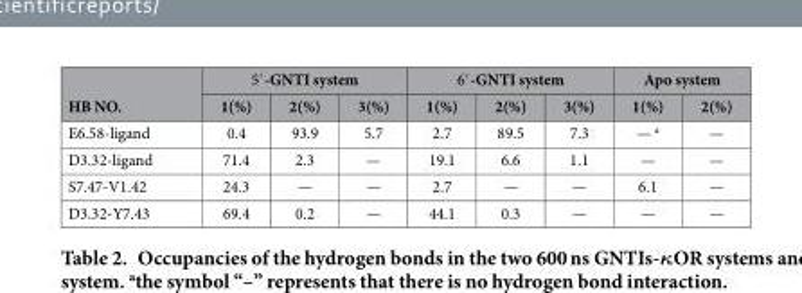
<table><thead><tr><td rowspan="2">HB NO.</td><td colspan="3">5′ -GNTI system</td><td colspan="3">6′ -GNTI system</td><td colspan="2">Apo system</td></tr><tr><td>1(%)</td><td>2(%)</td><td>3(%)</td><td>1(%)</td><td>2(%)</td><td>3(%)</td><td>1(%)</td><td>2(%)</td></tr></thead><tbody><tr><td>E6.58-ligand</td><td>0.4</td><td>93.9</td><td>5.7</td><td>2.7</td><td>89.5</td><td>7.3</td><td>— a</td><td>—</td></tr><tr><td>D3.32-ligand</td><td>71.4</td><td>2.3</td><td>—</td><td>19.1</td><td>6.6</td><td>1.1</td><td>—</td><td>—</td></tr><tr><td>S7.47-V1.42</td><td>24.3</td><td>—</td><td>—</td><td>2.7</td><td>—</td><td>—</td><td>6.1</td><td>—</td></tr><tr><td>D3.32-Y7.43</td><td>69.4</td><td>0.2</td><td>—</td><td>44.1</td><td>0.3</td><td>—</td><td>—</td><td>—</td></tr></tbody></table>